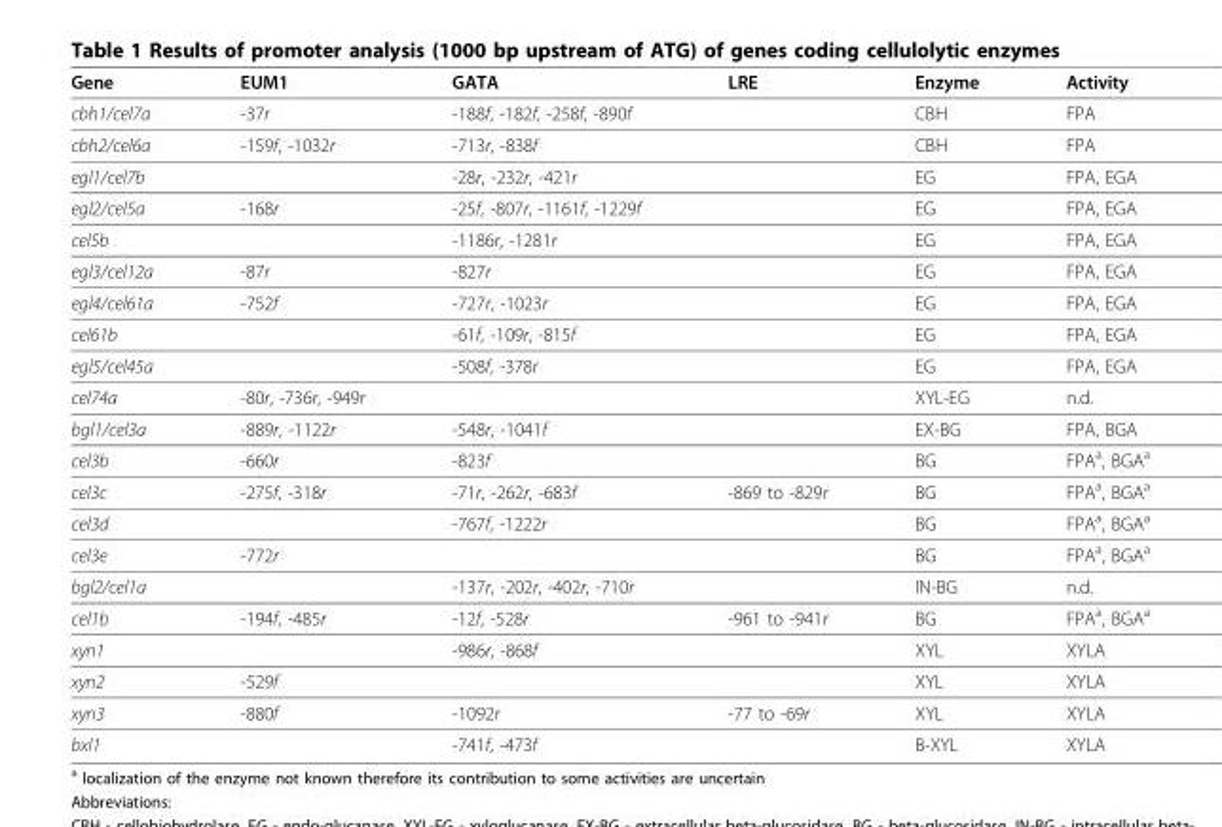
<table><thead><tr><td>Gene</td><td>EUM1</td><td>GATA</td><td>LRE</td><td>Enzyme</td><td>Activity</td></tr></thead><tbody><tr><td>cbh1/cel7a</td><td>-37r</td><td>-188f, -182f, -258f, -890f</td><td></td><td>CBH</td><td>FPA</td></tr><tr><td>cbh2/cel6a</td><td>-159f, -1032r</td><td>-713r, -838f</td><td></td><td>CBH</td><td>FPA</td></tr><tr><td>egl1/cel7b</td><td></td><td>-28r, -232r, -421r</td><td></td><td>EG</td><td>FPA, EGA</td></tr><tr><td>egl2/cel5a</td><td>-168r</td><td>-25f, -807r, -1161f, -1229f</td><td></td><td>EG</td><td>FPA, EGA</td></tr><tr><td>cel5b</td><td></td><td>-1186r, -1281r</td><td></td><td>EG</td><td>FPA, EGA</td></tr><tr><td>egl3/cel12a</td><td>-87r</td><td>-827r</td><td></td><td>EG</td><td>FPA, EGA</td></tr><tr><td>egl4/cel61a</td><td>-752f</td><td>-727r, -1023r</td><td></td><td>EG</td><td>FPA, EGA</td></tr><tr><td>cel61b</td><td></td><td>-61f, -109r, -815f</td><td></td><td>EG</td><td>FPA, EGA</td></tr><tr><td>egl5/cel45a</td><td></td><td>-508f, -378r</td><td></td><td>EG</td><td>FPA, EGA</td></tr><tr><td>cel74a</td><td>-80r, -736r, -949r</td><td></td><td></td><td>XYL-EG</td><td>n.d.</td></tr><tr><td>bgl1/cel3a</td><td>-889r, -1122r</td><td>-548r, -1041f</td><td></td><td>EX-BG</td><td>FPA, BGA</td></tr><tr><td>cel3b</td><td>-660r</td><td>-823f</td><td></td><td>BG</td><td>FPA<sup>a</sup>, BGA<sup>a</sup></td></tr><tr><td>cel3c</td><td>-275f, -318r</td><td>-71r, -262r, -683f</td><td>-869 to -829r</td><td>BG</td><td>FPA<sup>a</sup>, BGA<sup>a</sup></td></tr><tr><td>cel3d</td><td></td><td>-767f, -1222r</td><td></td><td>BG</td><td>FPA<sup>a</sup>, BGA<sup>a</sup></td></tr><tr><td>cel3e</td><td>-772r</td><td></td><td></td><td>BG</td><td>FPA<sup>a</sup>, BGA<sup>a</sup></td></tr><tr><td>bgl2/cel1a</td><td></td><td>-137r, -202r, -402r, -710r</td><td></td><td>IN-BG</td><td>n.d.</td></tr><tr><td>cel1b</td><td>-194f, -485r</td><td>-12f, -528r</td><td>-961 to -941r</td><td>BG</td><td>FPA<sup>a</sup>, BGA<sup>a</sup></td></tr><tr><td>xyn1</td><td></td><td>-986r, -868f</td><td></td><td>XYL</td><td>XYLA</td></tr><tr><td>xyn2</td><td>-529f</td><td></td><td></td><td>XYL</td><td>XYLA</td></tr><tr><td>xyn3</td><td>-880f</td><td>-1092r</td><td>-77 to -69r</td><td>XYL</td><td>XYLA</td></tr><tr><td>bxl1</td><td></td><td>-741f, -473f</td><td></td><td>B-XYL</td><td>XYLA</td></tr></tbody></table>